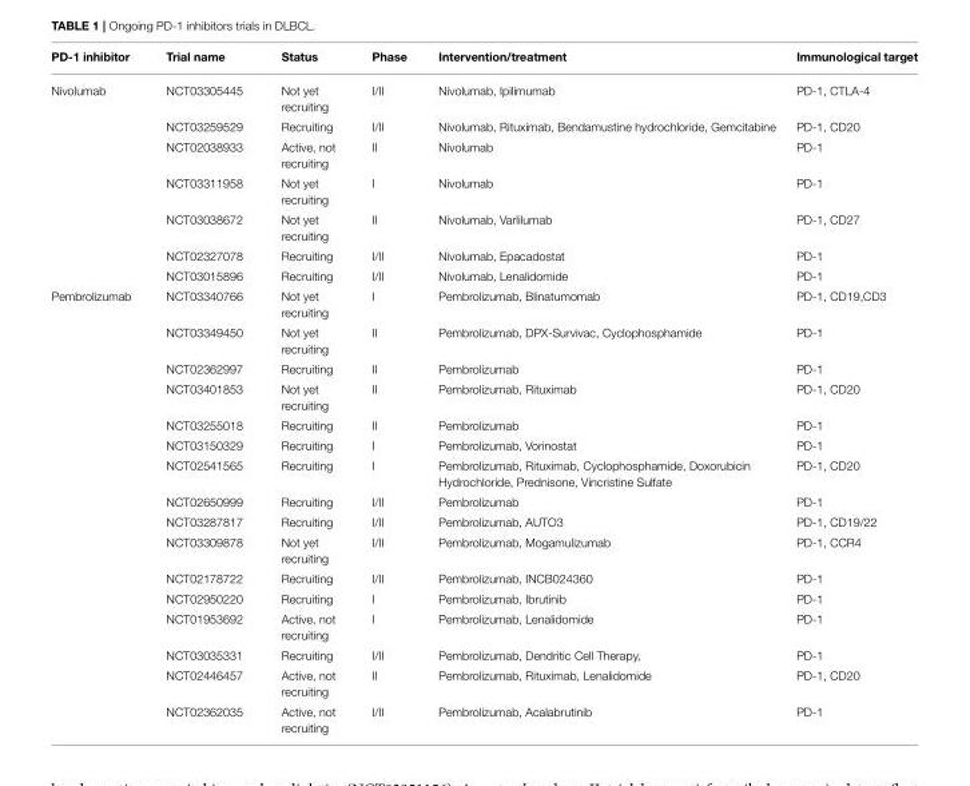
<table><thead><tr><td>PD-1 inhibitor</td><td>Trial name</td><td>Status</td><td>Phase</td><td>Intervention/treatment</td><td>Immunological target</td></tr></thead><tbody><tr><td rowspan="7">Nivolumab</td><td>NCT03305445</td><td>Not yet recruiting</td><td>I/II</td><td>Nivolumab, Ipilimumab</td><td>PD-1, CTLA-4</td></tr><tr><td>NCT03259529</td><td>Recruiting</td><td>I/II</td><td>Nivolumab, Rituximab, Bendamustine hydrochloride, Gemcitabine</td><td>PD-1, CD20</td></tr><tr><td>NCT02038933</td><td>Active, not recruiting</td><td>II</td><td>Nivolumab</td><td>PD-1</td></tr><tr><td>NCT03311958</td><td>Not yet recruiting</td><td>I</td><td>Nivolumab</td><td>PD-1</td></tr><tr><td>NCT03038672</td><td>Not yet recruiting</td><td>II</td><td>Nivolumab, Varlilumab</td><td>PD-1, CD27</td></tr><tr><td>NCT02327078</td><td>Recruiting</td><td>I/II</td><td>Nivolumab, Epacadostat</td><td>PD-1</td></tr><tr><td>NCT03015896</td><td>Recruiting</td><td>I/II</td><td>Nivolumab, Lenalidomide</td><td>PD-1</td></tr><tr><td rowspan="16">Pembrolizumab</td><td>NCT03340766</td><td>Not yet recruiting</td><td>I</td><td>Pembrolizumab, Blinatumomab</td><td>PD-1, CD19,CD3</td></tr><tr><td>NCT03349450</td><td>Not yet recruiting</td><td>II</td><td>Pembrolizumab, DPX-Survivac, Cyclophosphamide</td><td>PD-1</td></tr><tr><td>NCT02362997</td><td>Recruiting</td><td>II</td><td>Pembrolizumab</td><td>PD-1</td></tr><tr><td>NCT03401853</td><td>Not yet recruiting</td><td>II</td><td>Pembrolizumab, Rituximab</td><td>PD-1, CD20</td></tr><tr><td>NCT03255018</td><td>Recruiting</td><td>II</td><td>Pembrolizumab</td><td>PD-1</td></tr><tr><td>NCT03150329</td><td>Recruiting</td><td>I</td><td>Pembrolizumab, Vorinostat</td><td>PD-1</td></tr><tr><td>NCT02541565</td><td>Recruiting</td><td>I</td><td>Pembrolizumab, Rituximab, Cyclophosphamide, Doxorubicin Hydrochloride, Prednisone, Vincristine Sulfate</td><td>PD-1, CD20</td></tr><tr><td>NCT02650999</td><td>Recruiting</td><td>I/II</td><td>Pembrolizumab</td><td>PD-1</td></tr><tr><td>NCT03287817</td><td>Recruiting</td><td>I/II</td><td>Pembrolizumab, AUTO3</td><td>PD-1, CD19/22</td></tr><tr><td>NCT03309878</td><td>Not yet recruiting</td><td>I/II</td><td>Pembrolizumab, Mogamulizumab</td><td>PD-1, CCR4</td></tr><tr><td>NCT02178722</td><td>Recruiting</td><td>I/II</td><td>Pembrolizumab, INCB024360</td><td>PD-1</td></tr><tr><td>NCT02950220</td><td>Recruiting</td><td>I</td><td>Pembrolizumab, Ibrutinib</td><td>PD-1</td></tr><tr><td>NCT01953692</td><td>Active, not recruiting</td><td>I</td><td>Pembrolizumab, Lenalidomide</td><td>PD-1</td></tr><tr><td>NCT03035331</td><td>Recruiting</td><td>I/II</td><td>Pembrolizumab, Dendritic Cell Therapy,</td><td>PD-1</td></tr><tr><td>NCT02446457</td><td>Active, not recruiting</td><td>II</td><td>Pembrolizumab, Rituximab, Lenalidomide</td><td>PD-1, CD20</td></tr><tr><td>NCT02362035</td><td>Active, not recruiting</td><td>I/II</td><td>Pembrolizumab, Acalabrutinib</td><td>PD-1</td></tr></tbody></table>